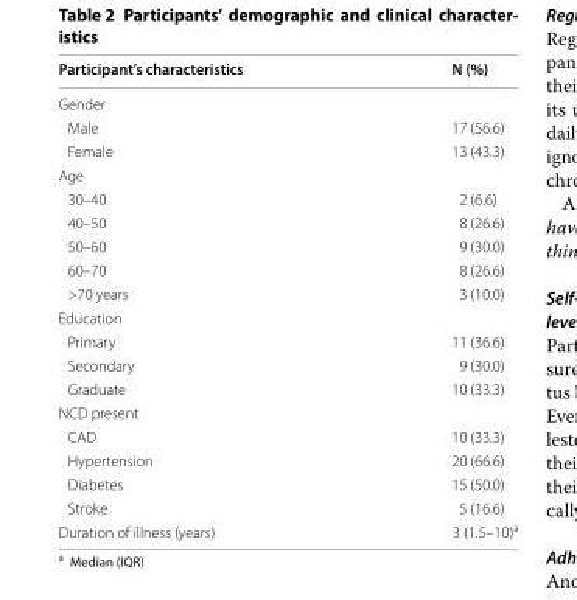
<table><thead><tr><td>Participant’s characteristics</td><td>N (%)</td></tr></thead><tbody><tr><td colspan="2">Gender</td></tr><tr><td>Male</td><td>17 (56.6)</td></tr><tr><td>Female</td><td>13 (43.3)</td></tr><tr><td colspan="2">Age</td></tr><tr><td>30–40</td><td>2 (6.6)</td></tr><tr><td>40–50</td><td>8 (26.6)</td></tr><tr><td>50–60</td><td>9 (30.0)</td></tr><tr><td>60–70</td><td>8 (26.6)</td></tr><tr><td>&gt;70 years</td><td>3 (10.0)</td></tr><tr><td colspan="2">Education</td></tr><tr><td>Primary</td><td>11 (36.6)</td></tr><tr><td>Secondary</td><td>9 (30.0)</td></tr><tr><td>Graduate</td><td>10 (33.3)</td></tr><tr><td colspan="2">NCD present</td></tr><tr><td>CAD</td><td>10 (33.3)</td></tr><tr><td>Hypertension</td><td>20 (66.6)</td></tr><tr><td>Diabetes</td><td>15 (50.0)</td></tr><tr><td>Stroke</td><td>5 (16.6)</td></tr><tr><td>Duration of illness (years)</td><td>3 (1.5–10)<sup>a</sup></td></tr></tbody></table>